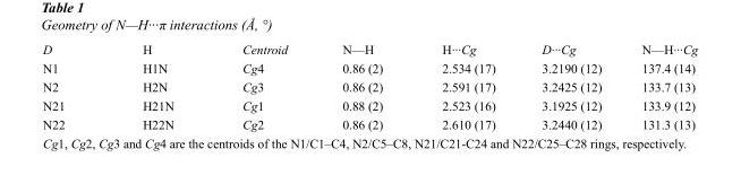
<table><thead><tr><td>D</td><td>H</td><td>Centroid</td><td>N—H</td><td>H···Cg</td><td>D···Cg</td><td>N—H···Cg</td></tr></thead><tbody><tr><td>N1</td><td>H1N</td><td>Cg4</td><td>0.86 (2)</td><td>2.534 (17)</td><td>3.2190 (12)</td><td>137.4 (14)</td></tr><tr><td>N2</td><td>H2N</td><td>Cg3</td><td>0.86 (2)</td><td>2.591 (17)</td><td>3.2425 (12)</td><td>133.7 (13)</td></tr><tr><td>N21</td><td>H21N</td><td>Cg1</td><td>0.88 (2)</td><td>2.523 (16)</td><td>3.1925 (12)</td><td>133.9 (12)</td></tr><tr><td>N22</td><td>H22N</td><td>Cg2</td><td>0.86 (2)</td><td>2.610 (17)</td><td>3.2440 (12)</td><td>131.3 (13)</td></tr></tbody></table>